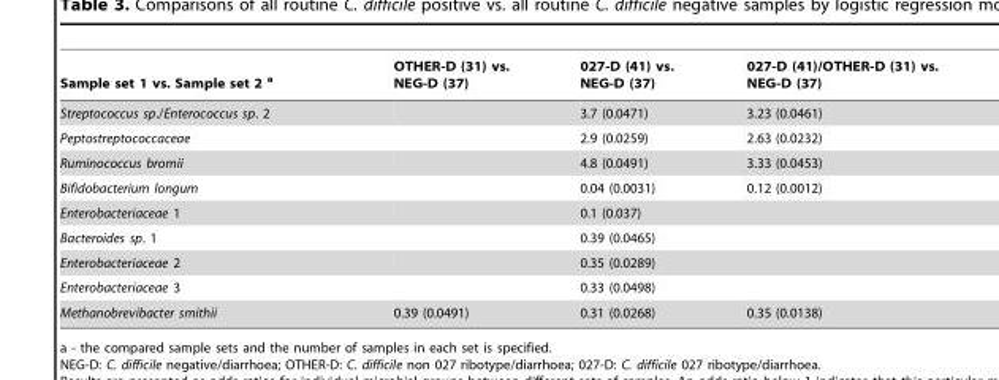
<table><thead><tr><td>Sample set 1 vs. Sample set 2 <sup>a</sup></td><td>OTHER-D (31) vs. NEG-D (37)</td><td>027-D (41) vs. NEG-D (37)</td><td>027-D (41)/OTHER-D (31) vs. NEG-D (37)</td></tr></thead><tbody><tr><td>Streptococcus sp./Enterococcus sp. 2</td><td></td><td>3.7 (0.0471)</td><td>3.23 (0.0461)</td></tr><tr><td>Peptostreptococcaceae</td><td></td><td>2.9 (0.0259)</td><td>2.63 (0.0232)</td></tr><tr><td>Ruminococcus bromii</td><td></td><td>4.8 (0.0491)</td><td>3.33 (0.0453)</td></tr><tr><td>Bifidobacterium longum</td><td></td><td>0.04 (0.0031)</td><td>0.12 (0.0012)</td></tr><tr><td>Enterobacteriaceae 1</td><td></td><td>0.1 (0.037)</td><td></td></tr><tr><td>Bacteroides sp. 1</td><td></td><td>0.39 (0.0465)</td><td></td></tr><tr><td>Enterobacteriaceae 2</td><td></td><td>0.35 (0.0289)</td><td></td></tr><tr><td>Enterobacteriaceae 3</td><td></td><td>0.33 (0.0498)</td><td></td></tr><tr><td>Methanobrevibacter smithii</td><td>0.39 (0.0491)</td><td>0.31 (0.0268)</td><td>0.35 (0.0138)</td></tr></tbody></table>